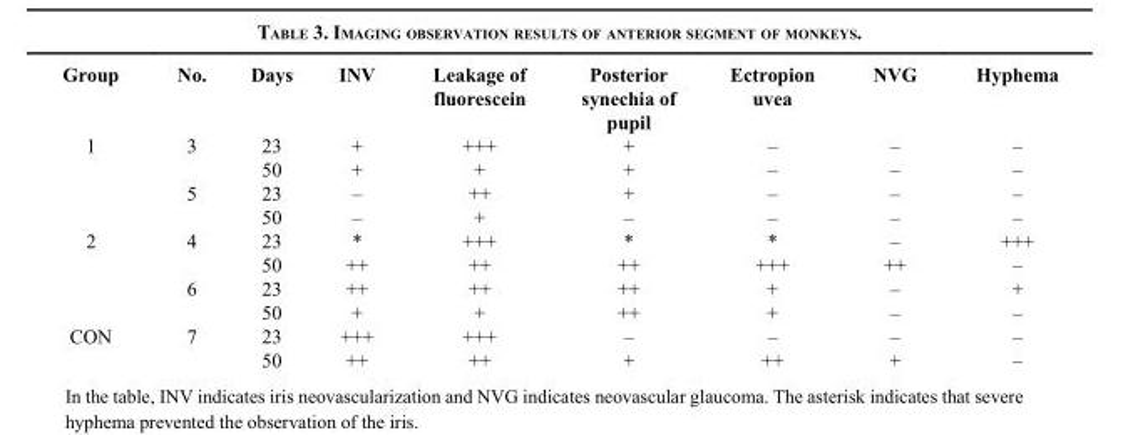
<table><thead><tr><td>Group</td><td>No.</td><td>Days</td><td>INV</td><td>Leakage of fluorescein</td><td>Posterior synechia of pupil</td><td>Ectropion uvea</td><td>NVG</td><td>Hyphema</td></tr></thead><tbody><tr><td rowspan="4">1</td><td>3</td><td>23</td><td>+</td><td>+++</td><td>+</td><td>–</td><td>–</td><td>–</td></tr><tr><td></td><td>50</td><td>+</td><td>+</td><td>+</td><td>–</td><td>–</td><td>–</td></tr><tr><td>5</td><td>23</td><td>–</td><td>++</td><td>+</td><td>–</td><td>–</td><td>–</td></tr><tr><td></td><td>50</td><td>–</td><td>+</td><td>–</td><td>–</td><td>–</td><td>–</td></tr><tr><td rowspan="4">2</td><td>4</td><td>23</td><td>*</td><td>+++</td><td>*</td><td>*</td><td>–</td><td>+++</td></tr><tr><td></td><td>50</td><td>++</td><td>++</td><td>++</td><td>+++</td><td>++</td><td>–</td></tr><tr><td>6</td><td>23</td><td>++</td><td>++</td><td>++</td><td>+</td><td>–</td><td>+</td></tr><tr><td></td><td>50</td><td>+</td><td>+</td><td>++</td><td>+</td><td>–</td><td>–</td></tr><tr><td rowspan="2">CON</td><td>7</td><td>23</td><td>+++</td><td>+++</td><td>–</td><td>–</td><td>–</td><td>–</td></tr><tr><td></td><td>50</td><td>++</td><td>++</td><td>+</td><td>++</td><td>+</td><td>–</td></tr></tbody></table>